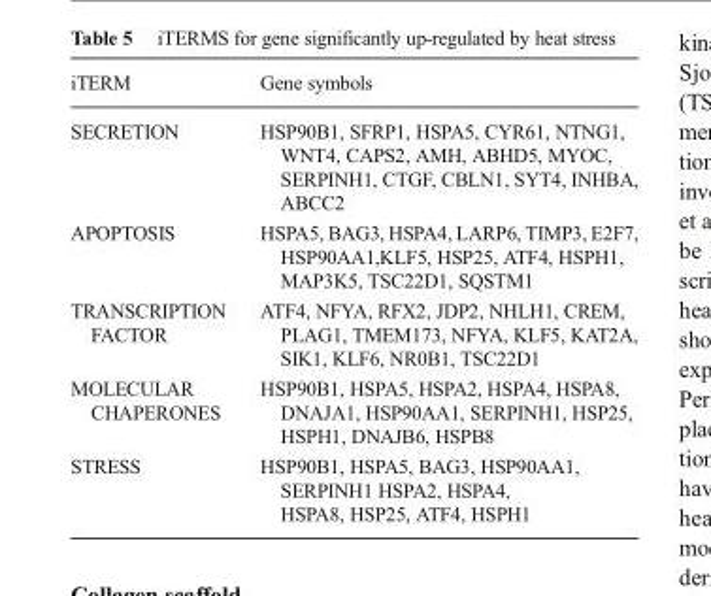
<table><thead><tr><td>iTERM</td><td>Gene symbols</td></tr></thead><tbody><tr><td>SECRETION</td><td>HSP90B1, SFRP1, HSPA5, CYR61, NTNG1, WNT4, CAPS2, AMH, ABHD5, MYOC, SERPINH1, CTGF, CBLN1, SYT4, INHBA, ABCC2</td></tr><tr><td>APOPTOSIS</td><td>HSPA5, BAG3, HSPA4, LARP6, TIMP3, E2F7, HSP90AA1,KLF5, HSP25, ATF4, HSPH1, MAP3K5, TSC22D1, SQSTM1</td></tr><tr><td>TRANSCRIPTION FACTOR</td><td>ATF4, NFYA, RFX2, JDP2, NHLH1, CREM, PLAG1, TMEM173, NFYA, KLF5, KAT2A, SIK1, KLF6, NR0B1, TSC22D1</td></tr><tr><td>MOLECULAR CHAPERONES</td><td>HSP90B1, HSPA5, HSPA2, HSPA4, HSPA8, DNAJA1, HSP90AA1, SERPINH1, HSP25, HSPH1, DNAJB6, HSPB8</td></tr><tr><td>STRESS</td><td>HSP90B1, HSPA5, BAG3, HSP90AA1, SERPINH1 HSPA2, HSPA4, HSPA8, HSP25, ATF4, HSPH1</td></tr></tbody></table>